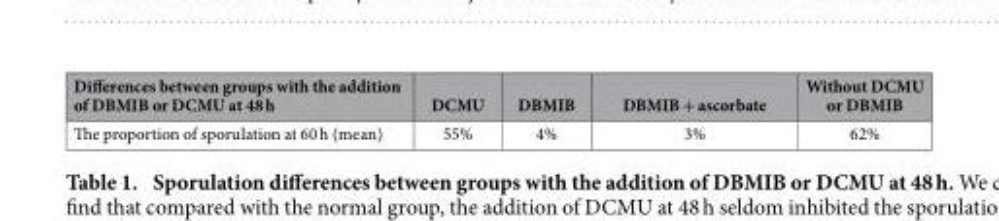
<table><thead><tr><td>Differences between groups with the addition of DBMIB or DCMU at 48 h</td><td>DCMU</td><td>DBMIB</td><td>DBMIB + ascorbate</td><td>Without DCMU or DBMIB</td></tr></thead><tbody><tr><td>The proportion of sporulation at 60 h (mean)</td><td>55%</td><td>4%</td><td>3%</td><td>62%</td></tr></tbody></table>